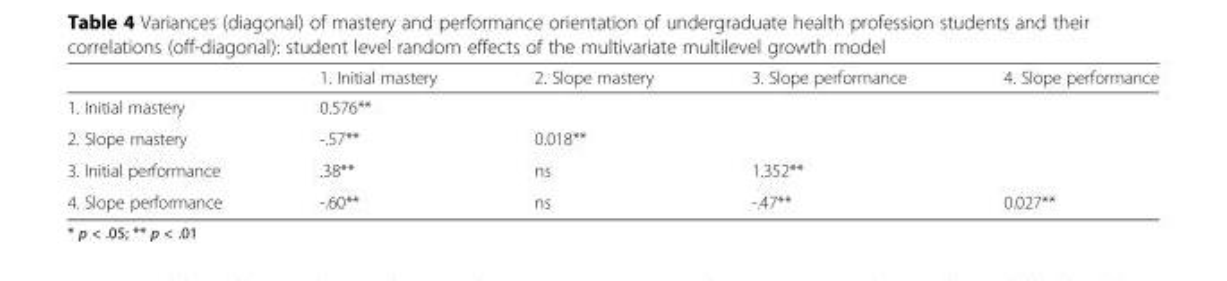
<table><thead><tr><td></td><td>1. Initial mastery</td><td>2. Slope mastery</td><td>3. Slope performance</td><td>4. Slope performance</td></tr></thead><tbody><tr><td>1. Initial mastery</td><td>0.576**</td><td></td><td></td><td></td></tr><tr><td>2. Slope mastery</td><td>-.57**</td><td>0.018**</td><td></td><td></td></tr><tr><td>3. Initial performance</td><td>.38**</td><td>ns</td><td>1.352**</td><td></td></tr><tr><td>4. Slope performance</td><td>-.60**</td><td>ns</td><td>-.47**</td><td>0.027**</td></tr></tbody></table>